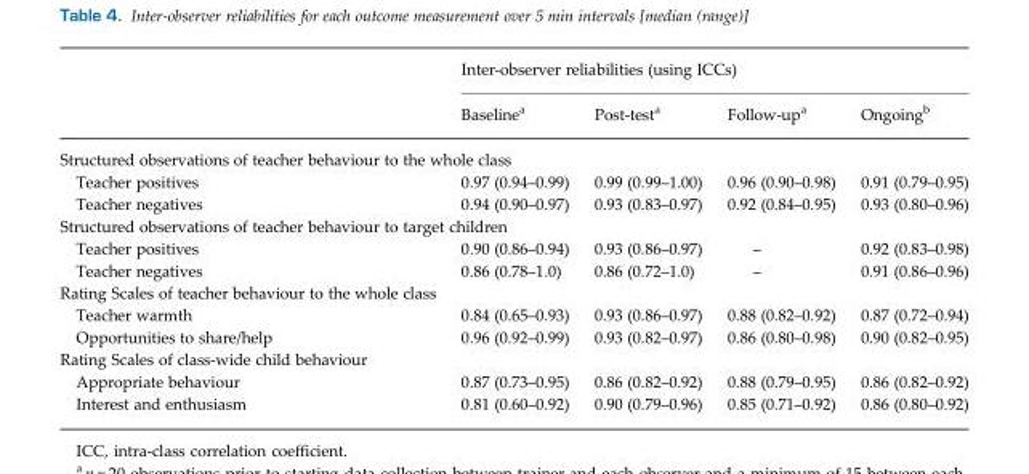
<table><thead><tr><td rowspan="2"></td><td colspan="4">Inter-observer reliabilities (using ICCs)</td></tr><tr><td>Baseline<sup>a</sup></td><td>Post-test<sup>a</sup></td><td>Follow-up<sup>a</sup></td><td>Ongoing<sup>b</sup></td></tr></thead><tbody><tr><td colspan="5">Structured observations of teacher behaviour to the whole class</td></tr><tr><td>Teacher positives</td><td>0.97 (0.94–0.99)</td><td>0.99 (0.99–1.00)</td><td>0.96 (0.90–0.98)</td><td>0.91 (0.79–0.95)</td></tr><tr><td>Teacher negatives</td><td>0.94 (0.90–0.97)</td><td>0.93 (0.83–0.97)</td><td>0.92 (0.84–0.95)</td><td>0.93 (0.80–0.96)</td></tr><tr><td colspan="5">Structured observations of teacher behaviour to target children</td></tr><tr><td>Teacher positives</td><td>0.90 (0.86–0.94)</td><td>0.93 (0.86–0.97)</td><td>–</td><td>0.92 (0.83–0.98)</td></tr><tr><td>Teacher negatives</td><td>0.86 (0.78–1.0)</td><td>0.86 (0.72–1.0)</td><td>–</td><td>0.91 (0.86–0.96)</td></tr><tr><td colspan="5">Rating Scales of teacher behaviour to the whole class</td></tr><tr><td>Teacher warmth</td><td>0.84 (0.65–0.93)</td><td>0.93 (0.86–0.97)</td><td>0.88 (0.82–0.92)</td><td>0.87 (0.72–0.94)</td></tr><tr><td>Opportunities to share/help</td><td>0.96 (0.92–0.99)</td><td>0.93 (0.82–0.97)</td><td>0.86 (0.80–0.98)</td><td>0.90 (0.82–0.95)</td></tr><tr><td colspan="5">Rating Scales of class-wide child behaviour</td></tr><tr><td>Appropriate behaviour</td><td>0.87 (0.73–0.95)</td><td>0.86 (0.82–0.92)</td><td>0.88 (0.79–0.95)</td><td>0.86 (0.82–0.92)</td></tr><tr><td>Interest and enthusiasm</td><td>0.81 (0.60–0.92)</td><td>0.90 (0.79–0.96)</td><td>0.85 (0.71–0.92)</td><td>0.86 (0.80–0.92)</td></tr></tbody></table>